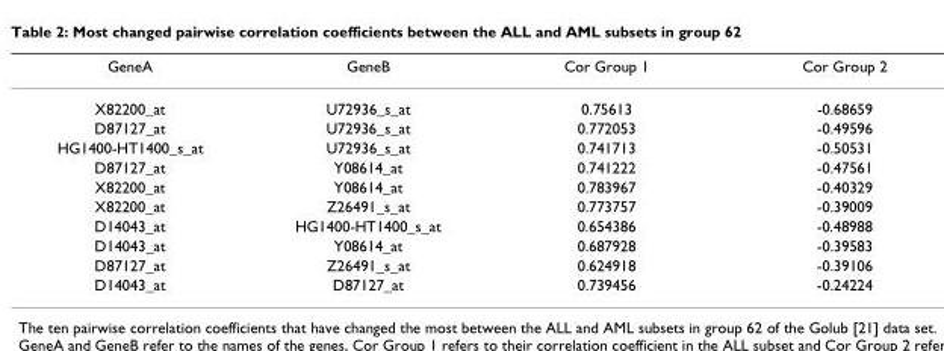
<table><thead><tr><td>GeneA</td><td>GeneB</td><td>Cor Group 1</td><td>Cor Group 2</td></tr></thead><tbody><tr><td>X82200_at</td><td>U72936_s_at</td><td>0.75613</td><td>-0.68659</td></tr><tr><td>D87127_at</td><td>U72936_s_at</td><td>0.772053</td><td>-0.49596</td></tr><tr><td>HG1400-HT1400_s_at</td><td>U72936_s_at</td><td>0.741713</td><td>-0.50531</td></tr><tr><td>D87127_at</td><td>Y08614_at</td><td>0.741222</td><td>-0.47561</td></tr><tr><td>X82200_at</td><td>Y08614_at</td><td>0.783967</td><td>-0.40329</td></tr><tr><td>X82200_at</td><td>Z26491_s_at</td><td>0.773757</td><td>-0.39009</td></tr><tr><td>D14043_at</td><td>HG1400-HT1400_s_at</td><td>0.654386</td><td>-0.48988</td></tr><tr><td>D14043_at</td><td>Y08614_at</td><td>0.687928</td><td>-0.39583</td></tr><tr><td>D87127_at</td><td>Z26491_s_at</td><td>0.624918</td><td>-0.39106</td></tr><tr><td>D14043_at</td><td>D87127_at</td><td>0.739456</td><td>-0.24224</td></tr></tbody></table>